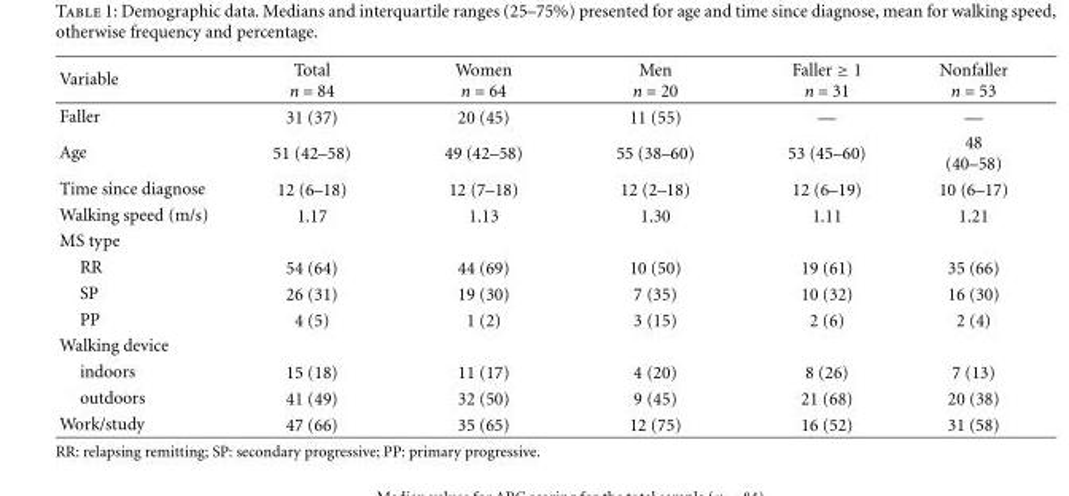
<table><thead><tr><td>Variable</td><td>Total n = 84</td><td>Women n = 64</td><td>Men n = 20</td><td>Faller ≥ 1 n = 31</td><td>Nonfaller n = 53</td></tr></thead><tbody><tr><td>Faller</td><td>31 (37)</td><td>20 (45)</td><td>11 (55)</td><td>—</td><td>—</td></tr><tr><td>Age</td><td>51 (42–58)</td><td>49 (42–58)</td><td>55 (38–60)</td><td>53 (45–60)</td><td>48 (40–58)</td></tr><tr><td>Time since diagnose</td><td>12 (6–18)</td><td>12 (7–18)</td><td>12 (2–18)</td><td>12 (6–19)</td><td>10 (6–17)</td></tr><tr><td>Walking speed (m/s)</td><td>1.17</td><td>1.13</td><td>1.30</td><td>1.11</td><td>1.21</td></tr><tr><td colspan="6">MS type</td></tr><tr><td>RR</td><td>54 (64)</td><td>44 (69)</td><td>10 (50)</td><td>19 (61)</td><td>35 (66)</td></tr><tr><td>SP</td><td>26 (31)</td><td>19 (30)</td><td>7 (35)</td><td>10 (32)</td><td>16 (30)</td></tr><tr><td>PP</td><td>4 (5)</td><td>1 (2)</td><td>3 (15)</td><td>2 (6)</td><td>2 (4)</td></tr><tr><td colspan="6">Walking device</td></tr><tr><td>indoors</td><td>15 (18)</td><td>11 (17)</td><td>4 (20)</td><td>8 (26)</td><td>7 (13)</td></tr><tr><td>outdoors</td><td>41 (49)</td><td>32 (50)</td><td>9 (45)</td><td>21 (68)</td><td>20 (38)</td></tr><tr><td>Work/study</td><td>47 (66)</td><td>35 (65)</td><td>12 (75)</td><td>16 (52)</td><td>31 (58)</td></tr></tbody></table>